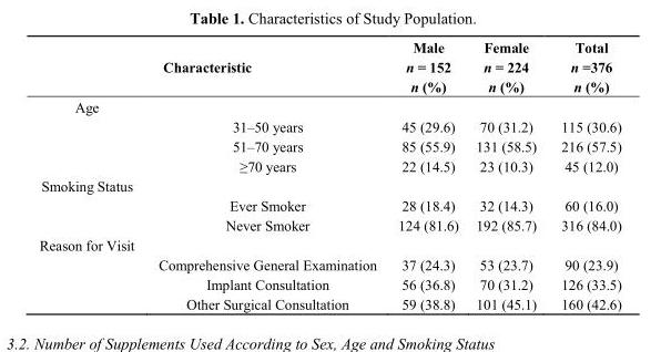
<table><thead><tr><td rowspan="3" colspan="2">Characteristic</td><td rowspan="4">Male n = 152 n (%)</td><td rowspan="3">Female n = 224 n (%)</td><td rowspan="3">Total n =376 n (%)</td></tr><tr></tr><tr></tr><tr><td>Age</td><td></td><td colspan="2"></td></tr></thead><tbody><tr><td></td><td>31–50 years</td><td>45 (29.6)</td><td>70 (31.2)</td><td>115 (30.6)</td></tr><tr><td></td><td>51–70 years</td><td>85 (55.9)</td><td>131 (58.5)</td><td>216 (57.5)</td></tr><tr><td></td><td>≥70 years</td><td>22 (14.5)</td><td>23 (10.3)</td><td>45 (12.0)</td></tr><tr><td colspan="5">Smoking Status</td></tr><tr><td></td><td>Ever Smoker</td><td>28 (18.4)</td><td>32 (14.3)</td><td>60 (16.0)</td></tr><tr><td></td><td>Never Smoker</td><td>124 (81.6)</td><td>192 (85.7)</td><td>316 (84.0)</td></tr><tr><td colspan="5">Reason for Visit</td></tr><tr><td></td><td>Comprehensive General Examination</td><td>37 (24.3)</td><td>53 (23.7)</td><td>90 (23.9)</td></tr><tr><td></td><td>Implant Consultation</td><td>56 (36.8)</td><td>70 (31.2)</td><td>126 (33.5)</td></tr><tr><td></td><td>Other Surgical Consultation</td><td>59 (38.8)</td><td>101 (45.1)</td><td>160 (42.6)</td></tr></tbody></table>